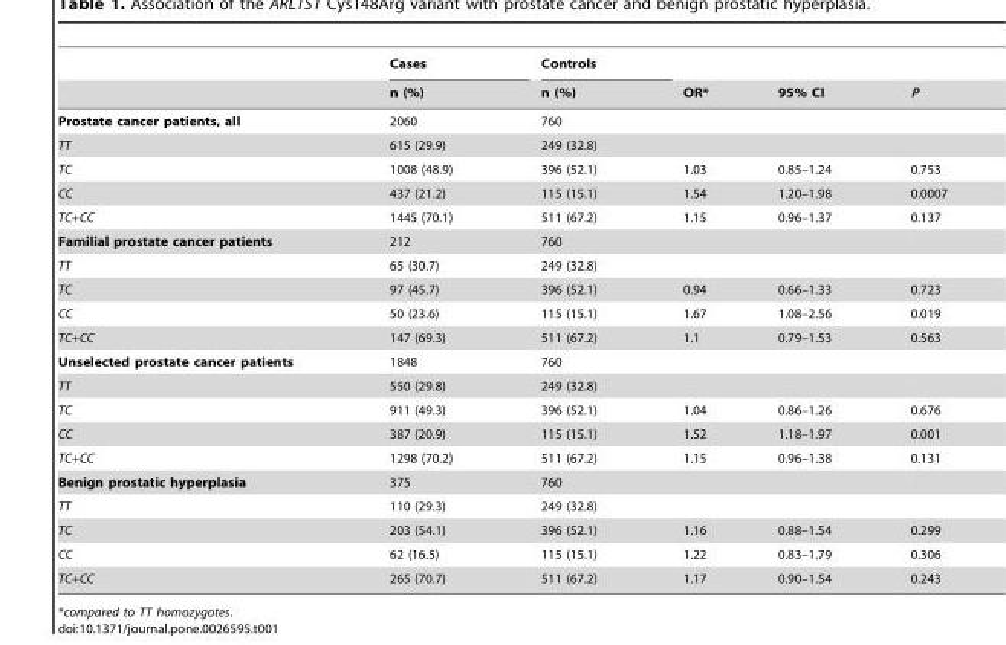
<table><thead><tr><td rowspan="2"></td><td rowspan="2">Cases n (%)</td><td rowspan="2">Controls n (%)</td><td rowspan="2">OR*</td><td rowspan="2">95% CI</td><td rowspan="2">P</td></tr><tr></tr></thead><tbody><tr><td>Prostate cancer patients, all</td><td>2060</td><td>760</td><td></td><td></td><td></td></tr><tr><td>TT</td><td>615 (29.9)</td><td>249 (32.8)</td><td></td><td></td><td></td></tr><tr><td>TC</td><td>1008 (48.9)</td><td>396 (52.1)</td><td>1.03</td><td>0.85–1.24</td><td>0.753</td></tr><tr><td>CC</td><td>437 (21.2)</td><td>115 (15.1)</td><td>1.54</td><td>1.20–1.98</td><td>0.0007</td></tr><tr><td>TC+CC</td><td>1445 (70.1)</td><td>511 (67.2)</td><td>1.15</td><td>0.96–1.37</td><td>0.137</td></tr><tr><td>Familial prostate cancer patients</td><td>212</td><td>760</td><td></td><td></td><td></td></tr><tr><td>TT</td><td>65 (30.7)</td><td>249 (32.8)</td><td></td><td></td><td></td></tr><tr><td>TC</td><td>97 (45.7)</td><td>396 (52.1)</td><td>0.94</td><td>0.66–1.33</td><td>0.723</td></tr><tr><td>CC</td><td>50 (23.6)</td><td>115 (15.1)</td><td>1.67</td><td>1.08–2.56</td><td>0.019</td></tr><tr><td>TC+CC</td><td>147 (69.3)</td><td>511 (67.2)</td><td>1.1</td><td>0.79–1.53</td><td>0.563</td></tr><tr><td>Unselected prostate cancer patients</td><td>1848</td><td>760</td><td></td><td></td><td></td></tr><tr><td>TT</td><td>550 (29.8)</td><td>249 (32.8)</td><td></td><td></td><td></td></tr><tr><td>TC</td><td>911 (49.3)</td><td>396 (52.1)</td><td>1.04</td><td>0.86–1.26</td><td>0.676</td></tr><tr><td>CC</td><td>387 (20.9)</td><td>115 (15.1)</td><td>1.52</td><td>1.18–1.97</td><td>0.001</td></tr><tr><td>TC+CC</td><td>1298 (70.2)</td><td>511 (67.2)</td><td>1.15</td><td>0.96–1.38</td><td>0.131</td></tr><tr><td>Benign prostatic hyperplasia</td><td>375</td><td>760</td><td></td><td></td><td></td></tr><tr><td>TT</td><td>110 (29.3)</td><td>249 (32.8)</td><td></td><td></td><td></td></tr><tr><td>TC</td><td>203 (54.1)</td><td>396 (52.1)</td><td>1.16</td><td>0.88–1.54</td><td>0.299</td></tr><tr><td>CC</td><td>62 (16.5)</td><td>115 (15.1)</td><td>1.22</td><td>0.83–1.79</td><td>0.306</td></tr><tr><td>TC+CC</td><td>265 (70.7)</td><td>511 (67.2)</td><td>1.17</td><td>0.90–1.54</td><td>0.243</td></tr></tbody></table>